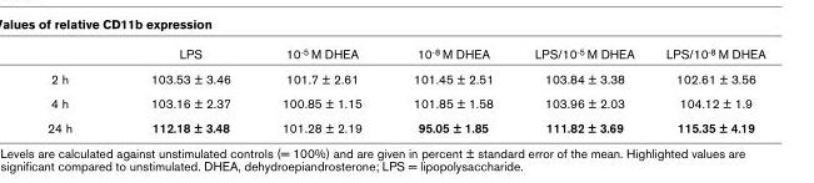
<table><thead><tr><td></td><td>LPS</td><td>10-5 M DHEA</td><td>10-8 M DHEA</td><td>LPS/10-5 M DHEA</td><td>LPS/10-8 M DHEA</td></tr></thead><tbody><tr><td>2 h</td><td>103.53 ± 3.46</td><td>101.7 ± 2.61</td><td>101.45 ± 2.51</td><td>103.84 ± 3.38</td><td>102.61 ± 3.56</td></tr><tr><td>4 h</td><td>103.16 ± 2.37</td><td>100.85 ± 1.15</td><td>101.85 ± 1.58</td><td>103.96 ± 2.03</td><td>104.12 ± 1.9</td></tr><tr><td>24 h</td><td>112.18 ± 3.48</td><td>101.28 ± 2.19</td><td>95.05 ± 1.85</td><td>111.82 ± 3.69</td><td>115.35 ± 4.19</td></tr></tbody></table>